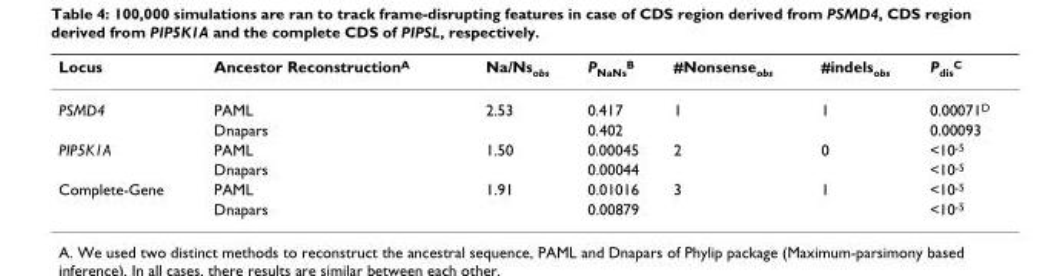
<table><thead><tr><td>Locus</td><td>Ancestor Reconstruction<sup>A</sup></td><td>Na/Ns<sub>obs</sub></td><td>P<sub>NaNs</sub><sup>B</sup></td><td>#Nonsense<sub>obs</sub></td><td>#indels<sub>obs</sub></td><td>P<sub>dis</sub><sup>C</sup></td></tr></thead><tbody><tr><td rowspan="2">PSMD4</td><td>PAML</td><td>2.53</td><td>0.417</td><td>1</td><td>1</td><td>0.00071<sup>D</sup></td></tr><tr><td>Dnapars</td><td></td><td>0.402</td><td></td><td></td><td>0.00093</td></tr><tr><td rowspan="2">PIP5K1A</td><td>PAML</td><td>1.50</td><td>0.00045</td><td>2</td><td>0</td><td>&lt;10<sup>-5</sup></td></tr><tr><td>Dnapars</td><td></td><td>0.00044</td><td></td><td></td><td>&lt;10<sup>-5</sup></td></tr><tr><td rowspan="2">Complete-Gene</td><td>PAML</td><td>1.91</td><td>0.01016</td><td>3</td><td>1</td><td>&lt;10<sup>-5</sup></td></tr><tr><td>Dnapars</td><td></td><td>0.00879</td><td></td><td></td><td>&lt;10<sup>-5</sup></td></tr></tbody></table>